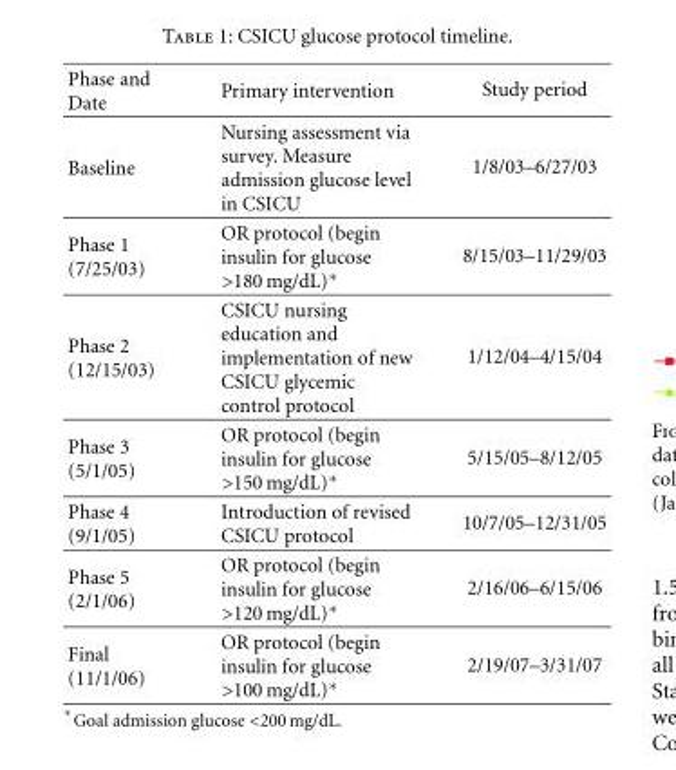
<table><thead><tr><td>Phase and Date</td><td>Primary intervention</td><td>Study period</td></tr></thead><tbody><tr><td>Baseline</td><td>Nursing assessment via survey. Measure admission glucose level in CSICU</td><td>1/8/03–6/27/03</td></tr><tr><td>Phase 1 (7/25/03)</td><td>OR protocol (begin insulin for glucose &gt;180 mg/dL)∗</td><td>8/15/03–11/29/03</td></tr><tr><td>Phase 2 (12/15/03)</td><td>CSICU nursing education and implementation of new CSICU glycemic control protocol</td><td>1/12/04–4/15/04</td></tr><tr><td>Phase 3 (5/1/05)</td><td>OR protocol (begin insulin for glucose &gt;150 mg/dL)∗</td><td>5/15/05–8/12/05</td></tr><tr><td>Phase 4 (9/1/05)</td><td>Introduction of revised CSICU protocol</td><td>10/7/05–12/31/05</td></tr><tr><td>Phase 5 (2/1/06)</td><td>OR protocol (begin insulin for glucose &gt;120 mg/dL)∗</td><td>2/16/06–6/15/06</td></tr><tr><td>Final (11/1/06)</td><td>OR protocol (begin insulin for glucose &gt;100 mg/dL)∗</td><td>2/19/07–3/31/07</td></tr></tbody></table>